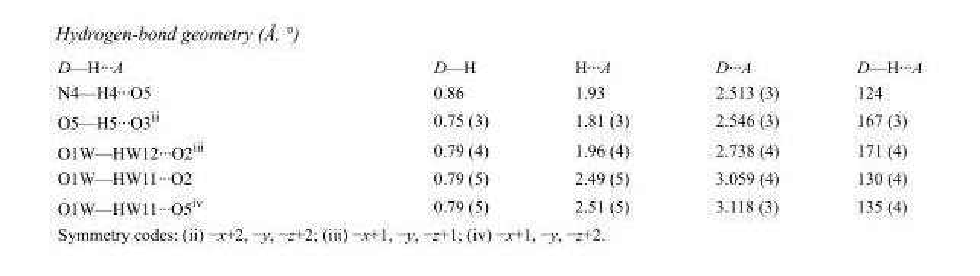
<table><tbody><tr><td>D—H···A</td><td>D—H</td><td>H···A</td><td>D···A</td><td>D—H···A</td></tr><tr><td>N4—H4···O5</td><td>0.86</td><td>1.93</td><td>2.513 (3)</td><td>124</td></tr><tr><td>O5—H5···O3<sup>ii</sup></td><td>0.75 (3)</td><td>1.81 (3)</td><td>2.546 (3)</td><td>167 (3)</td></tr><tr><td>O1W—HW12···O2<sup>iii</sup></td><td>0.79 (4)</td><td>1.96 (4)</td><td>2.738 (4)</td><td>171 (4)</td></tr><tr><td>O1W—HW11···O2</td><td>0.79 (5)</td><td>2.49 (5)</td><td>3.059 (4)</td><td>130 (4)</td></tr><tr><td>O1W—HW11···O5<sup>iv</sup></td><td>0.79 (5)</td><td>2.51 (5)</td><td>3.118 (3)</td><td>135 (4)</td></tr></tbody></table>